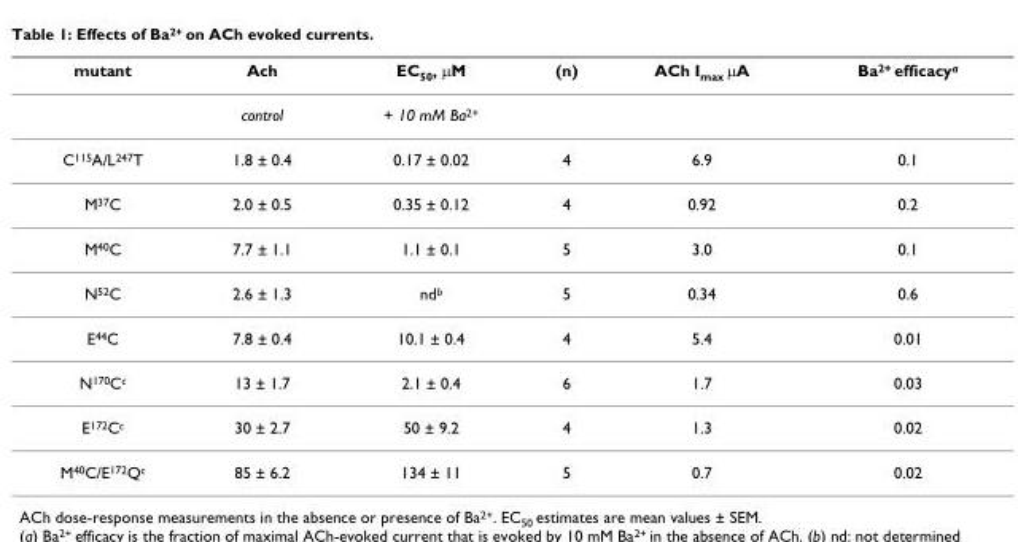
<table><thead><tr><td>mutant</td><td>Ach</td><td>EC<sub>50</sub>, μM</td><td>(n)</td><td>ACh I<sub>max</sub> μA</td><td>Ba<sup>2+</sup> efficacy<sup>a</sup></td></tr></thead><tbody><tr><td></td><td>control</td><td>+ 10 mM Ba<sup>2+</sup></td><td></td><td></td><td></td></tr><tr><td>C<sup>115</sup>A/L<sup>247</sup>T</td><td>1.8 ± 0.4</td><td>0.17 ± 0.02</td><td>4</td><td>6.9</td><td>0.1</td></tr><tr><td>M<sup>37</sup>C</td><td>2.0 ± 0.5</td><td>0.35 ± 0.12</td><td>4</td><td>0.92</td><td>0.2</td></tr><tr><td>M<sup>40</sup>C</td><td>7.7 ± 1.1</td><td>1.1 ± 0.1</td><td>5</td><td>3.0</td><td>0.1</td></tr><tr><td>N<sup>52</sup>C</td><td>2.6 ± 1.3</td><td>nd<sup>b</sup></td><td>5</td><td>0.34</td><td>0.6</td></tr><tr><td>E<sup>44</sup>C</td><td>7.8 ± 0.4</td><td>10.1 ± 0.4</td><td>4</td><td>5.4</td><td>0.01</td></tr><tr><td>N<sup>170</sup>C<sup>c</sup></td><td>13 ± 1.7</td><td>2.1 ± 0.4</td><td>6</td><td>1.7</td><td>0.03</td></tr><tr><td>E<sup>172</sup>C<sup>c</sup></td><td>30 ± 2.7</td><td>50 ± 9.2</td><td>4</td><td>1.3</td><td>0.02</td></tr><tr><td>M<sup>40</sup>C/E<sup>172</sup>Q<sup>c</sup></td><td>85 ± 6.2</td><td>134 ± 11</td><td>5</td><td>0.7</td><td>0.02</td></tr></tbody></table>